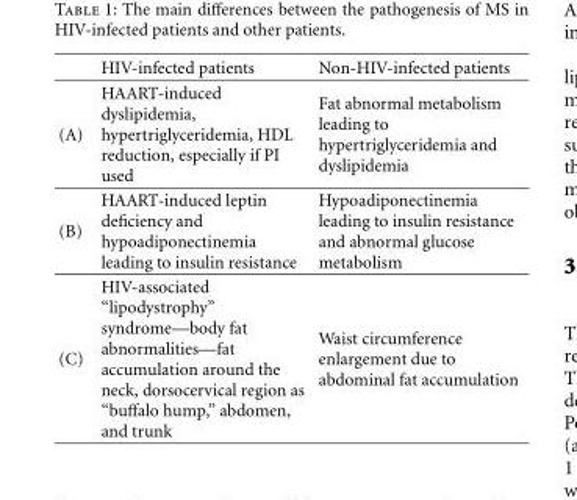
<table><thead><tr><td></td><td>HIV-infected patients</td><td>Non-HIV-infected patients</td></tr></thead><tbody><tr><td>(A)</td><td>HAART-induced dyslipidemia, hypertriglyceridemia, HDL reduction, especially if PI used</td><td>Fat abnormal metabolism leading to hypertriglyceridemia and dyslipidemia</td></tr><tr><td>(B)</td><td>HAART-induced leptin deficiency and hypoadiponectinemia leading to insulin resistance</td><td>Hypoadiponectinemia leading to insulin resistance and abnormal glucose metabolism</td></tr><tr><td>(C)</td><td>HIV-associated “lipodystrophy” syndrome—body fat abnormalities—fat accumulation around the neck, dorsocervical region as “buffalo hump,” abdomen, and trunk</td><td>Waist circumference enlargement due to abdominal fat accumulation</td></tr></tbody></table>